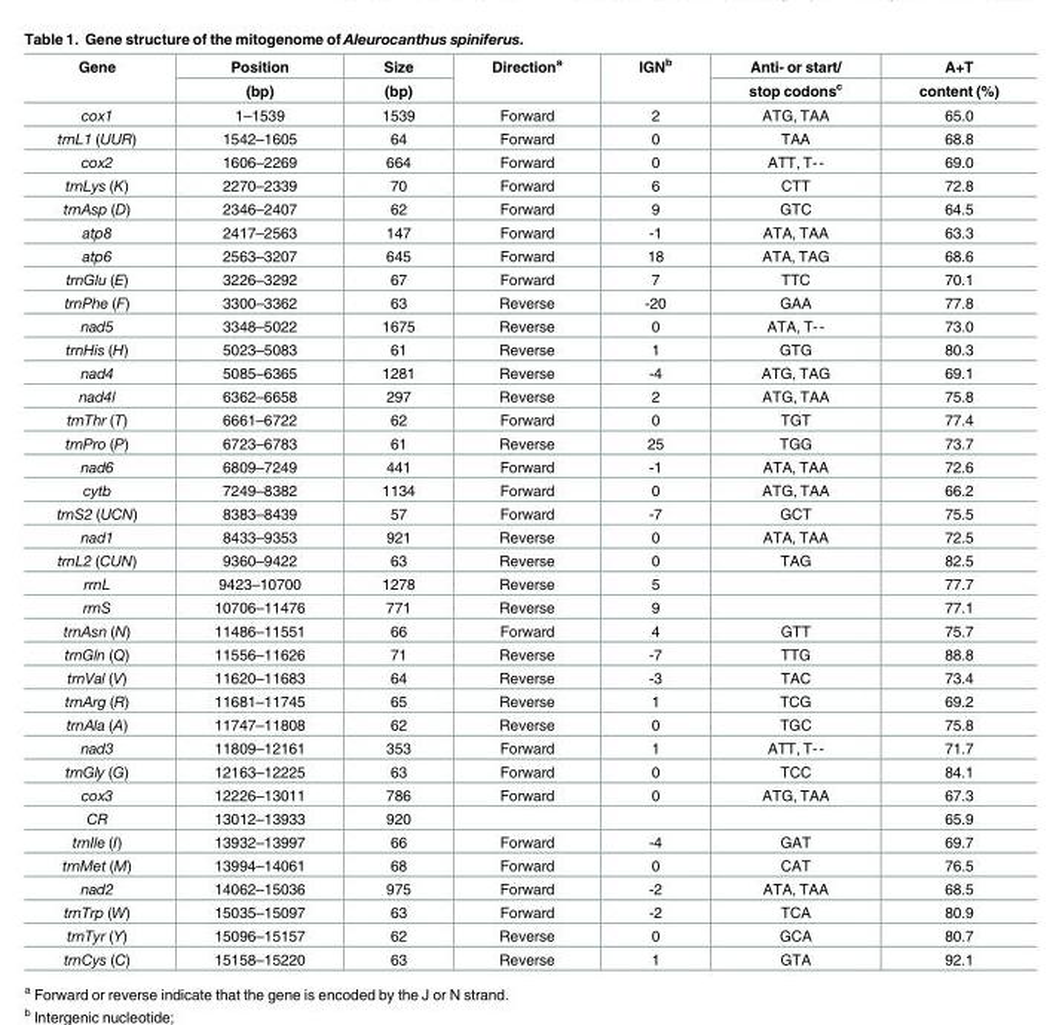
<table><thead><tr><td rowspan="2">Gene</td><td rowspan="2">Position (bp)</td><td rowspan="2">Size (bp)</td><td rowspan="2">Direction<sup>a</sup></td><td rowspan="2">IGN<sup>b</sup></td><td rowspan="2">Anti- or start/ stop codons<sup>c</sup></td><td rowspan="2">A+T content (%)</td></tr><tr></tr></thead><tbody><tr><td>cox1</td><td>1–1539</td><td>1539</td><td>Forward</td><td>2</td><td>ATG, TAA</td><td>65.0</td></tr><tr><td>trnL1 (UUR)</td><td>1542–1605</td><td>64</td><td>Forward</td><td>0</td><td>TAA</td><td>68.8</td></tr><tr><td>cox2</td><td>1606–2269</td><td>664</td><td>Forward</td><td>0</td><td>ATT, T--</td><td>69.0</td></tr><tr><td>trnLys (K)</td><td>2270–2339</td><td>70</td><td>Forward</td><td>6</td><td>CTT</td><td>72.8</td></tr><tr><td>trnAsp (D)</td><td>2346–2407</td><td>62</td><td>Forward</td><td>9</td><td>GTC</td><td>64.5</td></tr><tr><td>atp8</td><td>2417–2563</td><td>147</td><td>Forward</td><td>-1</td><td>ATA, TAA</td><td>63.3</td></tr><tr><td>atp6</td><td>2563–3207</td><td>645</td><td>Forward</td><td>18</td><td>ATA, TAG</td><td>68.6</td></tr><tr><td>trnGlu (E)</td><td>3226–3292</td><td>67</td><td>Forward</td><td>7</td><td>TTC</td><td>70.1</td></tr><tr><td>trnPhe (F)</td><td>3300–3362</td><td>63</td><td>Reverse</td><td>-20</td><td>GAA</td><td>77.8</td></tr><tr><td>nad5</td><td>3348–5022</td><td>1675</td><td>Reverse</td><td>0</td><td>ATA, T--</td><td>73.0</td></tr><tr><td>trnHis (H)</td><td>5023–5083</td><td>61</td><td>Reverse</td><td>1</td><td>GTG</td><td>80.3</td></tr><tr><td>nad4</td><td>5085–6365</td><td>1281</td><td>Reverse</td><td>-4</td><td>ATG, TAG</td><td>69.1</td></tr><tr><td>nad4l</td><td>6362–6658</td><td>297</td><td>Reverse</td><td>2</td><td>ATG, TAA</td><td>75.8</td></tr><tr><td>trnThr (T)</td><td>6661–6722</td><td>62</td><td>Forward</td><td>0</td><td>TGT</td><td>77.4</td></tr><tr><td>trnPro (P)</td><td>6723–6783</td><td>61</td><td>Reverse</td><td>25</td><td>TGG</td><td>73.7</td></tr><tr><td>nad6</td><td>6809–7249</td><td>441</td><td>Forward</td><td>-1</td><td>ATA, TAA</td><td>72.6</td></tr><tr><td>cytb</td><td>7249–8382</td><td>1134</td><td>Forward</td><td>0</td><td>ATG, TAA</td><td>66.2</td></tr><tr><td>trnS2 (UCN)</td><td>8383–8439</td><td>57</td><td>Forward</td><td>-7</td><td>GCT</td><td>75.5</td></tr><tr><td>nad1</td><td>8433–9353</td><td>921</td><td>Reverse</td><td>0</td><td>ATA, TAA</td><td>72.5</td></tr><tr><td>trnL2 (CUN)</td><td>9360–9422</td><td>63</td><td>Reverse</td><td>0</td><td>TAG</td><td>82.5</td></tr><tr><td>rrnL</td><td>9423–10700</td><td>1278</td><td>Reverse</td><td>5</td><td></td><td>77.7</td></tr><tr><td>rrnS</td><td>10706–11476</td><td>771</td><td>Reverse</td><td>9</td><td></td><td>77.1</td></tr><tr><td>trnAsn (N)</td><td>11486–11551</td><td>66</td><td>Forward</td><td>4</td><td>GTT</td><td>75.7</td></tr><tr><td>trnGln (Q)</td><td>11556–11626</td><td>71</td><td>Reverse</td><td>-7</td><td>TTG</td><td>88.8</td></tr><tr><td>trnVal (V)</td><td>11620–11683</td><td>64</td><td>Reverse</td><td>-3</td><td>TAC</td><td>73.4</td></tr><tr><td>trnArg (R)</td><td>11681–11745</td><td>65</td><td>Reverse</td><td>1</td><td>TCG</td><td>69.2</td></tr><tr><td>trnAla (A)</td><td>11747–11808</td><td>62</td><td>Reverse</td><td>0</td><td>TGC</td><td>75.8</td></tr><tr><td>nad3</td><td>11809–12161</td><td>353</td><td>Forward</td><td>1</td><td>ATT, T--</td><td>71.7</td></tr><tr><td>trnGly (G)</td><td>12163–12225</td><td>63</td><td>Forward</td><td>0</td><td>TCC</td><td>84.1</td></tr><tr><td>cox3</td><td>12226–13011</td><td>786</td><td>Forward</td><td>0</td><td>ATG, TAA</td><td>67.3</td></tr><tr><td>CR</td><td>13012–13933</td><td>920</td><td></td><td></td><td></td><td>65.9</td></tr><tr><td>trnIle (I)</td><td>13932–13997</td><td>66</td><td>Forward</td><td>-4</td><td>GAT</td><td>69.7</td></tr><tr><td>trnMet (M)</td><td>13994–14061</td><td>68</td><td>Forward</td><td>0</td><td>CAT</td><td>76.5</td></tr><tr><td>nad2</td><td>14062–15036</td><td>975</td><td>Forward</td><td>-2</td><td>ATA, TAA</td><td>68.5</td></tr><tr><td>trnTrp (W)</td><td>15035–15097</td><td>63</td><td>Forward</td><td>-2</td><td>TCA</td><td>80.9</td></tr><tr><td>trnTyr (Y)</td><td>15096–15157</td><td>62</td><td>Reverse</td><td>0</td><td>GCA</td><td>80.7</td></tr><tr><td>trnCys (C)</td><td>15158–15220</td><td>63</td><td>Reverse</td><td>1</td><td>GTA</td><td>92.1</td></tr></tbody></table>